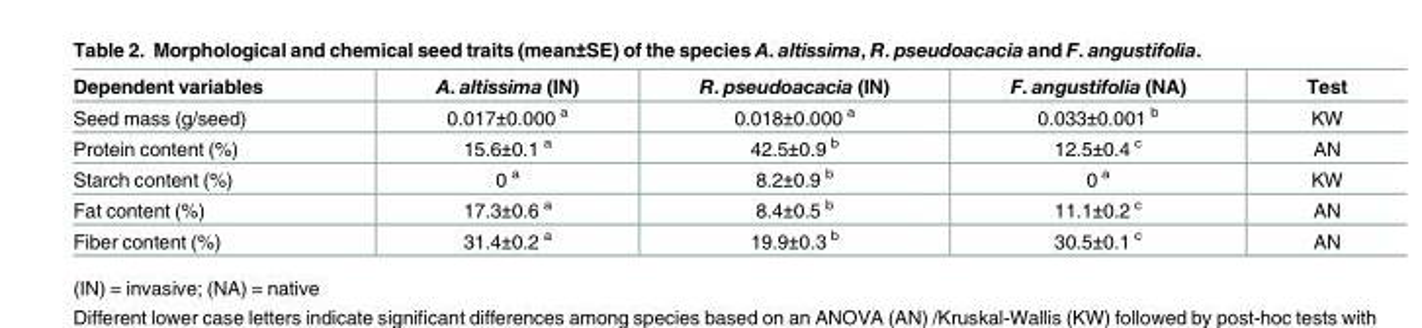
<table><thead><tr><td>Dependent variables</td><td>A. altissima (IN)</td><td>R. pseudoacacia (IN)</td><td>F. angustifolia (NA)</td><td>Test</td></tr></thead><tbody><tr><td>Seed mass (g/seed)</td><td>0.017±0.000 <sup>a</sup></td><td>0.018±0.000 <sup>a</sup></td><td>0.033±0.001 <sup>b</sup></td><td>KW</td></tr><tr><td>Protein content (%)</td><td>15.6±0.1 <sup>a</sup></td><td>42.5±0.9 <sup>b</sup></td><td>12.5±0.4 <sup>c</sup></td><td>AN</td></tr><tr><td>Starch content (%)</td><td>0 <sup>a</sup></td><td>8.2±0.9 <sup>b</sup></td><td>0 <sup>a</sup></td><td>KW</td></tr><tr><td>Fat content (%)</td><td>17.3±0.6 <sup>a</sup></td><td>8.4±0.5 <sup>b</sup></td><td>11.1±0.2 <sup>c</sup></td><td>AN</td></tr><tr><td>Fiber content (%)</td><td>31.4±0.2 <sup>a</sup></td><td>19.9±0.3 <sup>b</sup></td><td>30.5±0.1 <sup>c</sup></td><td>AN</td></tr></tbody></table>